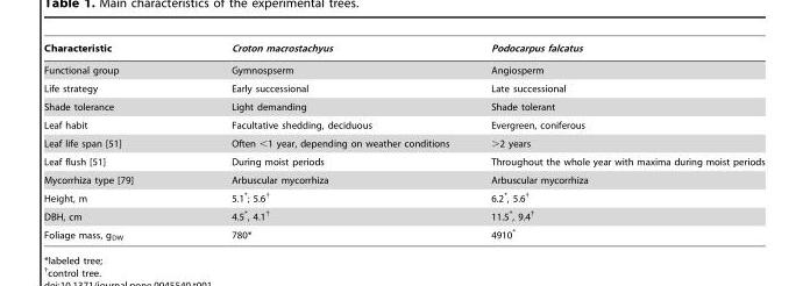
<table><thead><tr><td>Characteristic</td><td>Croton macrostachyus</td><td>Podocarpus falcatus</td></tr></thead><tbody><tr><td>Functional group</td><td>Gymnospserm</td><td>Angiosperm</td></tr><tr><td>Life strategy</td><td>Early successional</td><td>Late successional</td></tr><tr><td>Shade tolerance</td><td>Light demanding</td><td>Shade tolerant</td></tr><tr><td>Leaf habit</td><td>Facultative shedding, deciduous</td><td>Evergreen, coniferous</td></tr><tr><td>Leaf life span [51]</td><td>Often &lt;1 year, depending on weather conditions</td><td>&gt;2 years</td></tr><tr><td>Leaf flush [51]</td><td>During moist periods</td><td>Throughout the whole year with maxima during moist periods</td></tr><tr><td>Mycorrhiza type [79]</td><td>Arbuscular mycorrhiza</td><td>Arbuscular mycorrhiza</td></tr><tr><td>Height, m</td><td>5.1*; 5.6†</td><td>6.2*, 5.6†</td></tr><tr><td>DBH, cm</td><td>4.5*, 4.1†</td><td>11.5*, 9.4†</td></tr><tr><td>Foliage mass, g<sub>DW</sub></td><td>780*</td><td>4910*</td></tr></tbody></table>